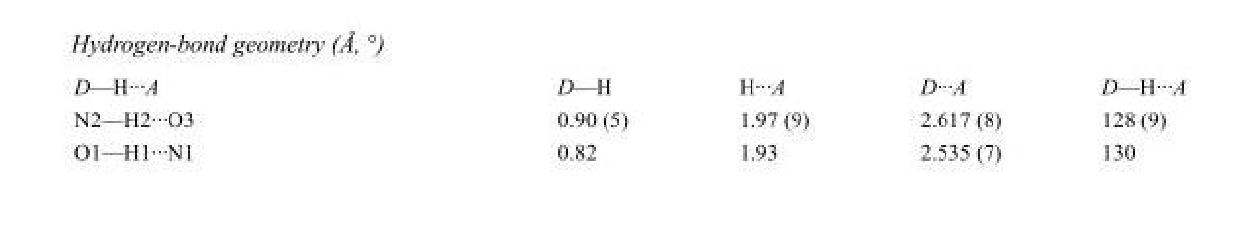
<table><tbody><tr><td>D—H···A</td><td>D—H</td><td>H···A</td><td>D···A</td><td>D—H···A</td></tr><tr><td>N2—H2···O3</td><td>0.90 (5)</td><td>1.97 (9)</td><td>2.617 (8)</td><td>128 (9)</td></tr><tr><td>O1—H1···N1</td><td>0.82</td><td>1.93</td><td>2.535 (7)</td><td>130</td></tr></tbody></table>